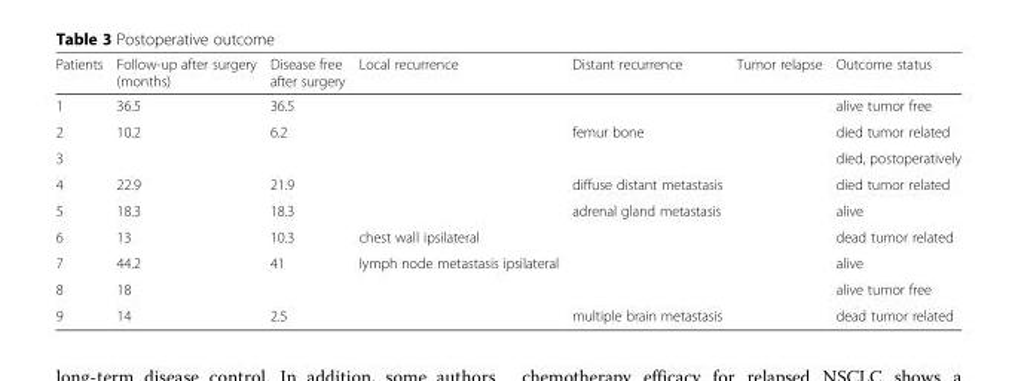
<table><thead><tr><td>Patients</td><td>Follow-up after surgery (months)</td><td>Disease free after surgery</td><td>Local recurrence</td><td>Distant recurrence</td><td>Tumor relapse</td><td>Outcome status</td></tr></thead><tbody><tr><td>1</td><td>36.5</td><td>36.5</td><td></td><td></td><td></td><td>alive tumor free</td></tr><tr><td>2</td><td>10.2</td><td>6.2</td><td></td><td>femur bone</td><td></td><td>died tumor related</td></tr><tr><td>3</td><td></td><td></td><td></td><td></td><td></td><td>died, postoperatively</td></tr><tr><td>4</td><td>22.9</td><td>21.9</td><td></td><td>diffuse distant metastasis</td><td></td><td>died tumor related</td></tr><tr><td>5</td><td>18.3</td><td>18.3</td><td></td><td>adrenal gland metastasis</td><td></td><td>alive</td></tr><tr><td>6</td><td>13</td><td>10.3</td><td>chest wall ipsilateral</td><td></td><td></td><td>dead tumor related</td></tr><tr><td>7</td><td>44.2</td><td>41</td><td>lymph node metastasis ipsilateral</td><td></td><td></td><td>alive</td></tr><tr><td>8</td><td>18</td><td></td><td></td><td></td><td></td><td>alive tumor free</td></tr><tr><td>9</td><td>14</td><td>2.5</td><td></td><td>multiple brain metastasis</td><td></td><td>dead tumor related</td></tr></tbody></table>